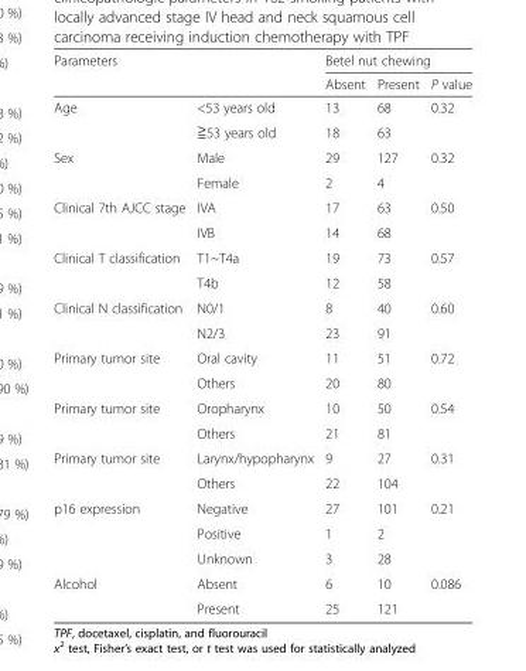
<table><thead><tr><td rowspan="2">Parameters</td><td rowspan="2"></td><td colspan="3">Betel nut chewing</td></tr><tr><td>Absent</td><td>Present</td><td>P value</td></tr></thead><tbody><tr><td rowspan="2">Age</td><td>&lt;53 years old</td><td>13</td><td>68</td><td>0.32</td></tr><tr><td>≧53 years old</td><td>18</td><td>63</td><td></td></tr><tr><td rowspan="2">Sex</td><td>Male</td><td>29</td><td>127</td><td>0.32</td></tr><tr><td>Female</td><td>2</td><td>4</td><td></td></tr><tr><td rowspan="2">Clinical 7th AJCC stage</td><td>IVA</td><td>17</td><td>63</td><td>0.50</td></tr><tr><td>IVB</td><td>14</td><td>68</td><td></td></tr><tr><td rowspan="2">Clinical T classification</td><td>T1~T4a</td><td>19</td><td>73</td><td>0.57</td></tr><tr><td>T4b</td><td>12</td><td>58</td><td></td></tr><tr><td rowspan="2">Clinical N classification</td><td>N0/1</td><td>8</td><td>40</td><td>0.60</td></tr><tr><td>N2/3</td><td>23</td><td>91</td><td></td></tr><tr><td rowspan="2">Primary tumor site</td><td>Oral cavity</td><td>11</td><td>51</td><td>0.72</td></tr><tr><td>Others</td><td>20</td><td>80</td><td></td></tr><tr><td rowspan="2">Primary tumor site</td><td>Oropharynx</td><td>10</td><td>50</td><td>0.54</td></tr><tr><td>Others</td><td>21</td><td>81</td><td></td></tr><tr><td rowspan="2">Primary tumor site</td><td>Larynx/hypopharynx</td><td>9</td><td>27</td><td>0.31</td></tr><tr><td>Others</td><td>22</td><td>104</td><td></td></tr><tr><td rowspan="3">p16 expression</td><td>Negative</td><td>27</td><td>101</td><td>0.21</td></tr><tr><td>Positive</td><td>1</td><td>2</td><td></td></tr><tr><td>Unknown</td><td>3</td><td>28</td><td></td></tr><tr><td rowspan="2">Alcohol</td><td>Absent</td><td>6</td><td>10</td><td>0.086</td></tr><tr><td>Present</td><td>25</td><td>121</td><td></td></tr></tbody></table>